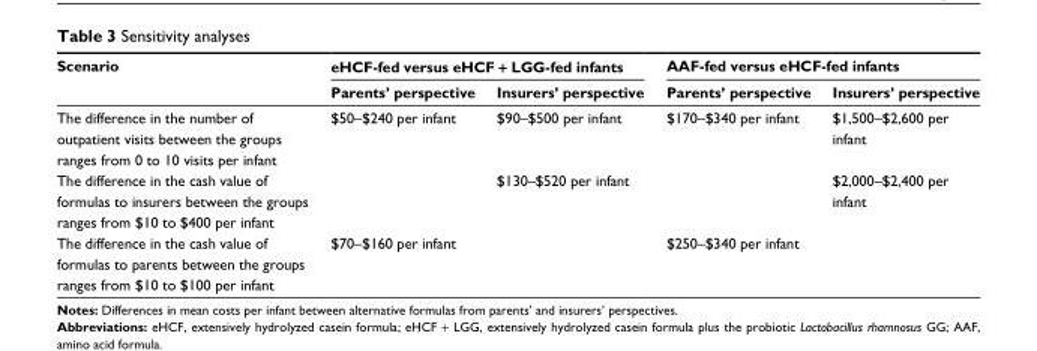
<table><thead><tr><td rowspan="2">Scenario</td><td colspan="2">eHCF-fed versus eHCF + LGG-fed infants</td><td colspan="2">AAF-fed versus eHCF-fed infants</td></tr><tr><td>Parents’ perspective</td><td>Insurers’ perspective</td><td>Parents’ perspective</td><td>Insurers’ perspective</td></tr></thead><tbody><tr><td>The difference in the number of outpatient visits between the groups ranges from 0 to 10 visits per infant</td><td>$50–$240 per infant</td><td>$90–$500 per infant</td><td>$170–$340 per infant</td><td>$1,500–$2,600 per infant</td></tr><tr><td>The difference in the cash value of formulas to insurers between the groups ranges from $10 to $400 per infant</td><td></td><td>$130–$520 per infant</td><td></td><td>$2,000–$2,400 per infant</td></tr><tr><td>The difference in the cash value of formulas to parents between the groups ranges from $10 to $100 per infant</td><td>$70–$160 per infant</td><td></td><td>$250–$340 per infant</td><td></td></tr></tbody></table>